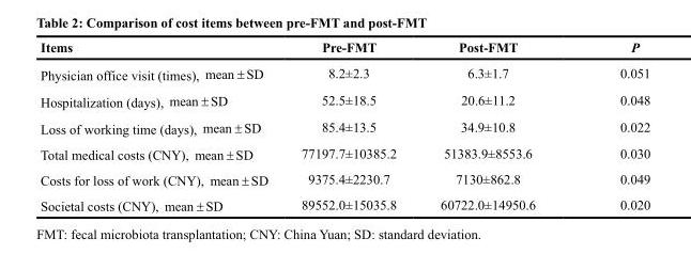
<table><thead><tr><td>Items</td><td>Pre-FMT</td><td>Post-FMT</td><td>P</td></tr></thead><tbody><tr><td>Physician office visit (times), mean ±SD</td><td>8.2±2.3</td><td>6.3±1.7</td><td>0.051</td></tr><tr><td>Hospitalization (days), mean ±SD</td><td>52.5±18.5</td><td>20.6±11.2</td><td>0.048</td></tr><tr><td>Loss of working time (days), mean ±SD</td><td>85.4±13.5</td><td>34.9±10.8</td><td>0.022</td></tr><tr><td>Total medical costs (CNY), mean ±SD</td><td>77197.7±10385.2</td><td>51383.9±8553.6</td><td>0.030</td></tr><tr><td>Costs for loss of work (CNY), mean ±SD</td><td>9375.4±2230.7</td><td>7130±862.8</td><td>0.049</td></tr><tr><td>Societal costs (CNY), mean ±SD</td><td>89552.0±15035.8</td><td>60722.0±14950.6</td><td>0.020</td></tr></tbody></table>